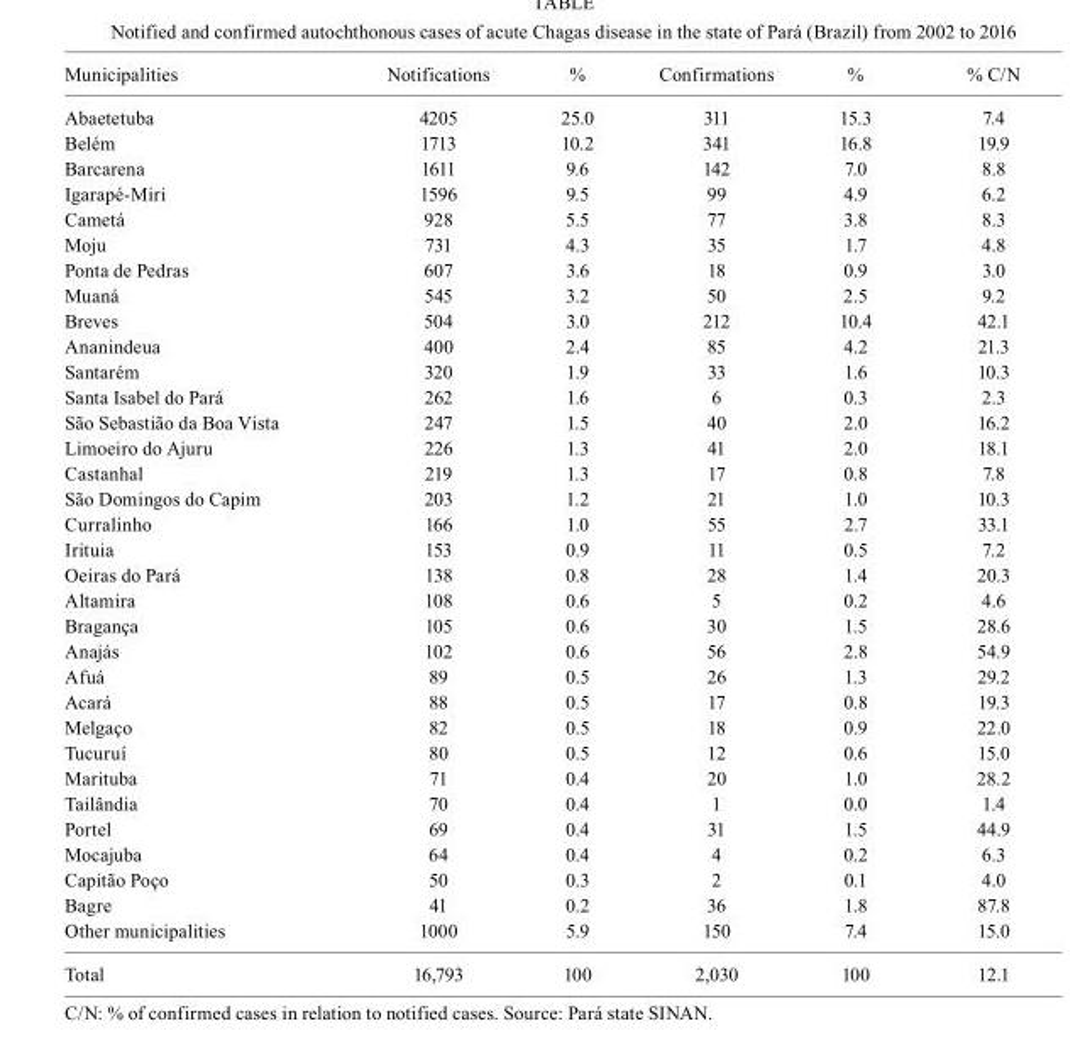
<table><thead><tr><td>Municipalities</td><td>Notifications</td><td>%</td><td>Confirmations</td><td>%</td><td>% C/N</td></tr></thead><tbody><tr><td>Abaetetuba</td><td>4205</td><td>25.0</td><td>311</td><td>15.3</td><td>7.4</td></tr><tr><td>Belém</td><td>1713</td><td>10.2</td><td>341</td><td>16.8</td><td>19.9</td></tr><tr><td>Barcarena</td><td>1611</td><td>9.6</td><td>142</td><td>7.0</td><td>8.8</td></tr><tr><td>Igarapé-Miri</td><td>1596</td><td>9.5</td><td>99</td><td>4.9</td><td>6.2</td></tr><tr><td>Cametá</td><td>928</td><td>5.5</td><td>77</td><td>3.8</td><td>8.3</td></tr><tr><td>Moju</td><td>731</td><td>4.3</td><td>35</td><td>1.7</td><td>4.8</td></tr><tr><td>Ponta de Pedras</td><td>607</td><td>3.6</td><td>18</td><td>0.9</td><td>3.0</td></tr><tr><td>Muaná</td><td>545</td><td>3.2</td><td>50</td><td>2.5</td><td>9.2</td></tr><tr><td>Breves</td><td>504</td><td>3.0</td><td>212</td><td>10.4</td><td>42.1</td></tr><tr><td>Ananindeua</td><td>400</td><td>2.4</td><td>85</td><td>4.2</td><td>21.3</td></tr><tr><td>Santarém</td><td>320</td><td>1.9</td><td>33</td><td>1.6</td><td>10.3</td></tr><tr><td>Santa Isabel do Pará</td><td>262</td><td>1.6</td><td>6</td><td>0.3</td><td>2.3</td></tr><tr><td>São Sebastião da Boa Vista</td><td>247</td><td>1.5</td><td>40</td><td>2.0</td><td>16.2</td></tr><tr><td>Limoeiro do Ajuru</td><td>226</td><td>1.3</td><td>41</td><td>2.0</td><td>18.1</td></tr><tr><td>Castanhal</td><td>219</td><td>1.3</td><td>17</td><td>0.8</td><td>7.8</td></tr><tr><td>São Domingos do Capim</td><td>203</td><td>1.2</td><td>21</td><td>1.0</td><td>10.3</td></tr><tr><td>Curralinho</td><td>166</td><td>1.0</td><td>55</td><td>2.7</td><td>33.1</td></tr><tr><td>Irituia</td><td>153</td><td>0.9</td><td>11</td><td>0.5</td><td>7.2</td></tr><tr><td>Oeiras do Pará</td><td>138</td><td>0.8</td><td>28</td><td>1.4</td><td>20.3</td></tr><tr><td>Altamira</td><td>108</td><td>0.6</td><td>5</td><td>0.2</td><td>4.6</td></tr><tr><td>Bragança</td><td>105</td><td>0.6</td><td>30</td><td>1.5</td><td>28.6</td></tr><tr><td>Anajás</td><td>102</td><td>0.6</td><td>56</td><td>2.8</td><td>54.9</td></tr><tr><td>Afuá</td><td>89</td><td>0.5</td><td>26</td><td>1.3</td><td>29.2</td></tr><tr><td>Acará</td><td>88</td><td>0.5</td><td>17</td><td>0.8</td><td>19.3</td></tr><tr><td>Melgaço</td><td>82</td><td>0.5</td><td>18</td><td>0.9</td><td>22.0</td></tr><tr><td>Tucuruí</td><td>80</td><td>0.5</td><td>12</td><td>0.6</td><td>15.0</td></tr><tr><td>Marituba</td><td>71</td><td>0.4</td><td>20</td><td>1.0</td><td>28.2</td></tr><tr><td>Tailândia</td><td>70</td><td>0.4</td><td>1</td><td>0.0</td><td>1.4</td></tr><tr><td>Portel</td><td>69</td><td>0.4</td><td>31</td><td>1.5</td><td>44.9</td></tr><tr><td>Mocajuba</td><td>64</td><td>0.4</td><td>4</td><td>0.2</td><td>6.3</td></tr><tr><td>Capitão Poço</td><td>50</td><td>0.3</td><td>2</td><td>0.1</td><td>4.0</td></tr><tr><td>Bagre</td><td>41</td><td>0.2</td><td>36</td><td>1.8</td><td>87.8</td></tr><tr><td>Other municipalities</td><td>1000</td><td>5.9</td><td>150</td><td>7.4</td><td>15.0</td></tr><tr><td>Total</td><td>16,793</td><td>100</td><td>2,030</td><td>100</td><td>12.1</td></tr></tbody></table>